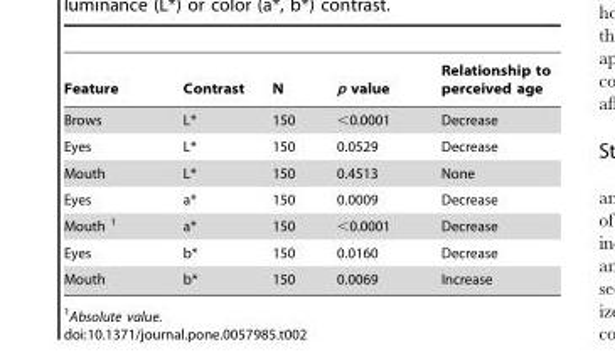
<table><thead><tr><td>Feature</td><td>Contrast</td><td>N</td><td>p value</td><td>Relationship to perceived age</td></tr></thead><tbody><tr><td>Brows</td><td>L*</td><td>150</td><td>&lt;0.0001</td><td>Decrease</td></tr><tr><td>Eyes</td><td>L*</td><td>150</td><td>0.0529</td><td>Decrease</td></tr><tr><td>Mouth</td><td>L*</td><td>150</td><td>0.4513</td><td>None</td></tr><tr><td>Eyes</td><td>a*</td><td>150</td><td>0.0009</td><td>Decrease</td></tr><tr><td>Mouth 1</td><td>a*</td><td>150</td><td>&lt;0.0001</td><td>Decrease</td></tr><tr><td>Eyes</td><td>b*</td><td>150</td><td>0.0160</td><td>Decrease</td></tr><tr><td>Mouth</td><td>b*</td><td>150</td><td>0.0069</td><td>Increase</td></tr></tbody></table>